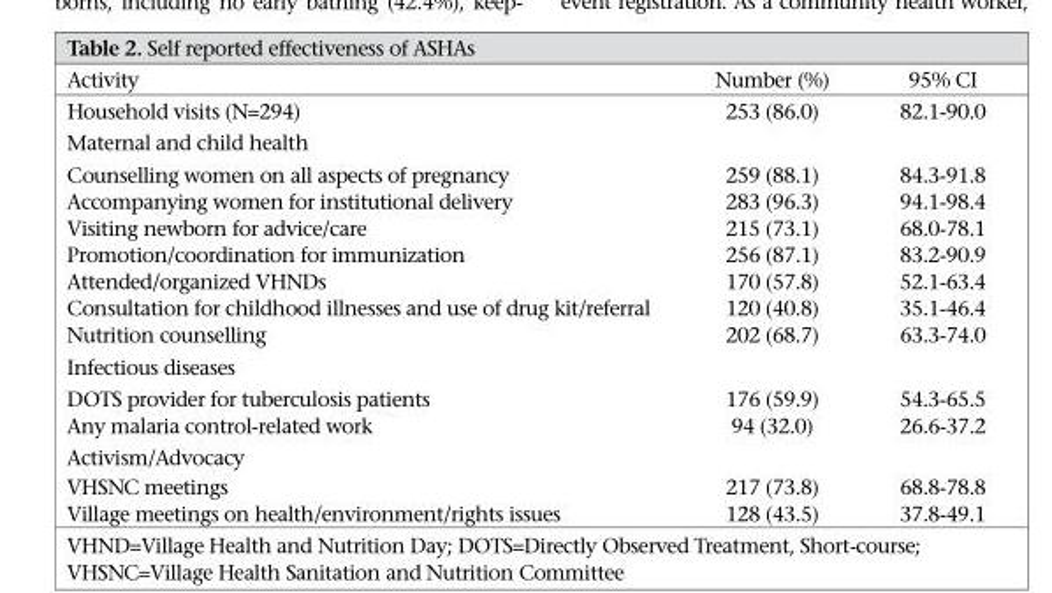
<table><thead><tr><td>Activity</td><td>Number (%)</td><td>95% CI</td></tr></thead><tbody><tr><td>Household visits (N=294)</td><td>253 (86.0)</td><td>82.1-90.0</td></tr><tr><td colspan="3">Maternal and child health</td></tr><tr><td>Counselling women on all aspects of pregnancy</td><td>259 (88.1)</td><td>84.3-91.8</td></tr><tr><td>Accompanying women for institutional delivery</td><td>283 (96.3)</td><td>94.1-98.4</td></tr><tr><td>Visiting newborn for advice/care</td><td>215 (73.1)</td><td>68.0-78.1</td></tr><tr><td>Promotion/coordination for immunization</td><td>256 (87.1)</td><td>83.2-90.9</td></tr><tr><td>Attended/organized VHNDs</td><td>170 (57.8)</td><td>52.1-63.4</td></tr><tr><td>Consultation for childhood illnesses and use of drug kit/referral</td><td>120 (40.8)</td><td>35.1-46.4</td></tr><tr><td>Nutrition counselling</td><td>202 (68.7)</td><td>63.3-74.0</td></tr><tr><td colspan="3">Infectious diseases</td></tr><tr><td>DOTS provider for tuberculosis patients</td><td>176 (59.9)</td><td>54.3-65.5</td></tr><tr><td>Any malaria control-related work</td><td>94 (32.0)</td><td>26.6-37.2</td></tr><tr><td colspan="3">Activism/Advocacy</td></tr><tr><td>VHSNC meetings</td><td>217 (73.8)</td><td>68.8-78.8</td></tr><tr><td>Village meetings on health/environment/rights issues</td><td>128 (43.5)</td><td>37.8-49.1</td></tr></tbody></table>